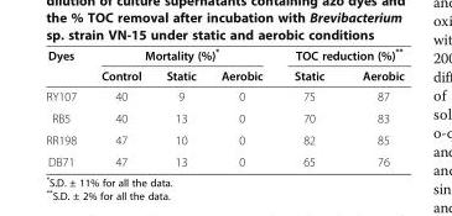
<table><thead><tr><td rowspan="2">Dyes</td><td colspan="3">Mortality (%)*</td><td colspan="2">TOC reduction (%)**</td></tr><tr><td>Control</td><td>Static</td><td>Aerobic</td><td>Static</td><td>Aerobic</td></tr></thead><tbody><tr><td>RY107</td><td>40</td><td>9</td><td>0</td><td>75</td><td>87</td></tr><tr><td>RB5</td><td>40</td><td>13</td><td>0</td><td>70</td><td>83</td></tr><tr><td>RR198</td><td>47</td><td>10</td><td>0</td><td>82</td><td>85</td></tr><tr><td>DB71</td><td>47</td><td>13</td><td>0</td><td>65</td><td>76</td></tr></tbody></table>